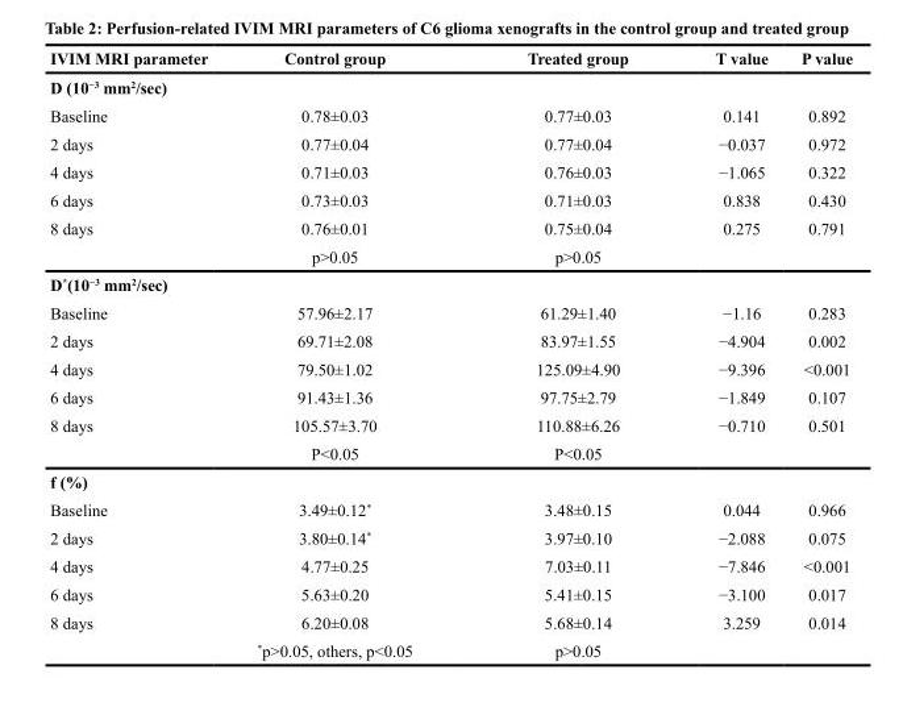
<table><thead><tr><td>IVIM MRI parameter</td><td>Control group</td><td>Treated group</td><td>T value</td><td>P value</td></tr></thead><tbody><tr><td colspan="5">D (10<sup>−3</sup> mm<sup>2</sup>/sec)</td></tr><tr><td>Baseline</td><td>0.78±0.03</td><td>0.77±0.03</td><td>0.141</td><td>0.892</td></tr><tr><td>2 days</td><td>0.77±0.04</td><td>0.77±0.04</td><td>−0.037</td><td>0.972</td></tr><tr><td>4 days</td><td>0.71±0.03</td><td>0.76±0.03</td><td>−1.065</td><td>0.322</td></tr><tr><td>6 days</td><td>0.73±0.03</td><td>0.71±0.03</td><td>0.838</td><td>0.430</td></tr><tr><td rowspan="2">8 days</td><td>0.76±0.01</td><td>0.75±0.04</td><td>0.275</td><td>0.791</td></tr><tr><td>p&gt;0.05</td><td>p&gt;0.05</td><td></td><td></td></tr><tr><td colspan="5">D*(10<sup>−3</sup> mm<sup>2</sup>/sec)</td></tr><tr><td>Baseline</td><td>57.96±2.17</td><td>61.29±1.40</td><td>−1.16</td><td>0.283</td></tr><tr><td>2 days</td><td>69.71±2.08</td><td>83.97±1.55</td><td>−4.904</td><td>0.002</td></tr><tr><td>4 days</td><td>79.50±1.02</td><td>125.09±4.90</td><td>−9.396</td><td>&lt;0.001</td></tr><tr><td>6 days</td><td>91.43±1.36</td><td>97.75±2.79</td><td>−1.849</td><td>0.107</td></tr><tr><td rowspan="2">8 days</td><td>105.57±3.70</td><td>110.88±6.26</td><td>−0.710</td><td>0.501</td></tr><tr><td>P&lt;0.05</td><td>P&lt;0.05</td><td></td><td></td></tr><tr><td colspan="5">f (%)</td></tr><tr><td>Baseline</td><td>3.49±0.12*</td><td>3.48±0.15</td><td>0.044</td><td>0.966</td></tr><tr><td>2 days</td><td>3.80±0.14*</td><td>3.97±0.10</td><td>−2.088</td><td>0.075</td></tr><tr><td>4 days</td><td>4.77±0.25</td><td>7.03±0.11</td><td>−7.846</td><td>&lt;0.001</td></tr><tr><td>6 days</td><td>5.63±0.20</td><td>5.41±0.15</td><td>−3.100</td><td>0.017</td></tr><tr><td rowspan="2">8 days</td><td>6.20±0.08</td><td>5.68±0.14</td><td>3.259</td><td>0.014</td></tr><tr><td>*p&gt;0.05, others, p&lt;0.05</td><td>p&gt;0.05</td><td></td><td></td></tr></tbody></table>